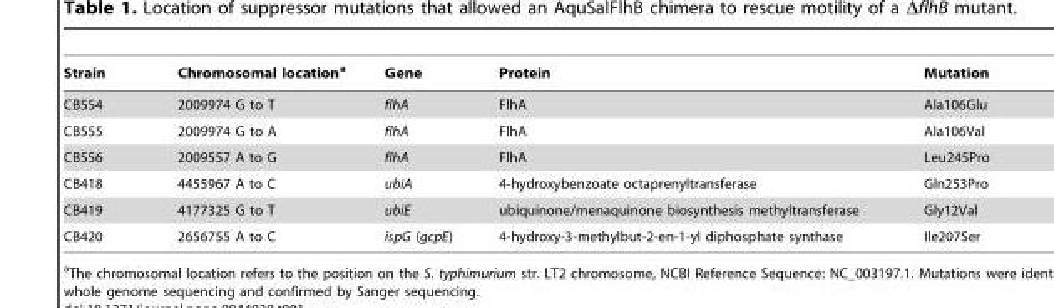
<table><thead><tr><td>Strain</td><td>Chromosomal location<sup>a</sup></td><td>Gene</td><td>Protein</td><td>Mutation</td></tr></thead><tbody><tr><td>CB554</td><td>2009974 G to T</td><td>flhA</td><td>FlhA</td><td>Ala106Glu</td></tr><tr><td>CB555</td><td>2009974 G to A</td><td>flhA</td><td>FlhA</td><td>Ala106Val</td></tr><tr><td>CB556</td><td>2009557 A to G</td><td>flhA</td><td>FlhA</td><td>Leu245Pro</td></tr><tr><td>CB418</td><td>4455967 A to C</td><td>ubiA</td><td>4-hydroxybenzoate octaprenyltransferase</td><td>Gln253Pro</td></tr><tr><td>CB419</td><td>4177325 G to T</td><td>ubiE</td><td>ubiquinone/menaquinone biosynthesis methyltransferase</td><td>Gly12Val</td></tr><tr><td>CB420</td><td>2656755 A to C</td><td>ispG (gcpE)</td><td>4-hydroxy-3-methylbut-2-en-1-yl diphosphate synthase</td><td>Ile207Ser</td></tr></tbody></table>